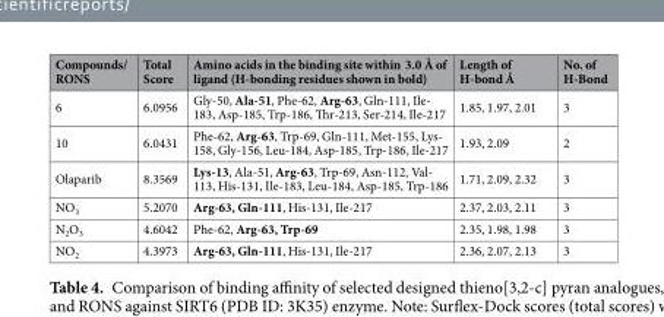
<table><thead><tr><td>Compounds/ RONS</td><td>Total Score</td><td>Amino acids in the binding site within 3.0 Å of ligand (H-bonding residues shown in bold)</td><td>Length of H-bond Å</td><td>No. of H-Bond</td></tr></thead><tbody><tr><td>6</td><td>6.0956</td><td>Gly-50, Ala-51, Phe-62, Arg-63, Gln-111, Ile- 183, Asp-185, Trp-186, Thr-213, Ser-214, Ile-217</td><td>1.85, 1.97, 2.01</td><td>3</td></tr><tr><td>10</td><td>6.0431</td><td>Phe-62, Arg-63, Trp-69, Gln-111, Met-155, Lys- 158, Gly-156, Leu-184, Asp-185, Trp-186, Ile-217</td><td>1.93, 2.09</td><td>2</td></tr><tr><td>Olaparib</td><td>8.3569</td><td>Lys-13, Ala-51, Arg-63, Trp-69, Asn-112, Val- 113, His-131, Ile-183, Leu-184, Asp-185, Trp-186</td><td>1.71, 2.09, 2.32</td><td>3</td></tr><tr><td>NO<sub>3</sub></td><td>5.2070</td><td>Arg-63, Gln-111, His-131, Ile-217</td><td>2.37, 2.03, 2.11</td><td>3</td></tr><tr><td>N<sub>2</sub>O<sub>3</sub></td><td>4.6042</td><td>Phe-62, Arg-63, Trp-69</td><td>2.35, 1.98, 1.98</td><td>3</td></tr><tr><td>NO<sub>2</sub></td><td>4.3973</td><td>Arg-63, Gln-111, His-131, Ile-217</td><td>2.36, 2.07, 2.13</td><td>3</td></tr></tbody></table>